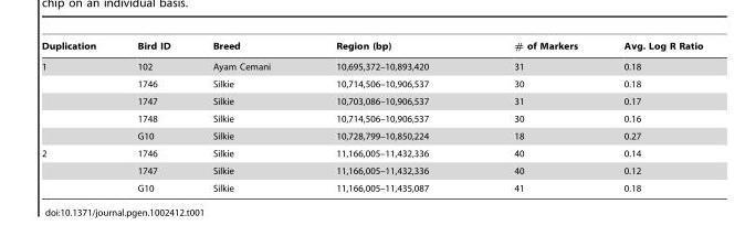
<table><thead><tr><td>Duplication</td><td>Bird ID</td><td>Breed</td><td>Region (bp)</td><td># of Markers</td><td>Avg. Log R Ratio</td></tr></thead><tbody><tr><td rowspan="5">1</td><td>102</td><td>Ayam Cemani</td><td>10,695,372–10,893,420</td><td>31</td><td>0.18</td></tr><tr><td>1746</td><td>Silkie</td><td>10,714,506–10,906,537</td><td>30</td><td>0.18</td></tr><tr><td>1747</td><td>Silkie</td><td>10,703,086–10,906,537</td><td>31</td><td>0.17</td></tr><tr><td>1748</td><td>Silkie</td><td>10,714,506–10,906,537</td><td>30</td><td>0.16</td></tr><tr><td>G10</td><td>Silkie</td><td>10,728,799–10,850,224</td><td>18</td><td>0.27</td></tr><tr><td rowspan="3">2</td><td>1746</td><td>Silkie</td><td>11,166,005–11,432,336</td><td>40</td><td>0.14</td></tr><tr><td>1747</td><td>Silkie</td><td>11,166,005–11,432,336</td><td>40</td><td>0.12</td></tr><tr><td>G10</td><td>Silkie</td><td>11,166,005–11,435,087</td><td>41</td><td>0.18</td></tr></tbody></table>